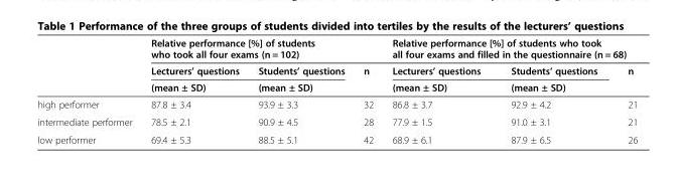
<table><thead><tr><td rowspan="3"></td><td colspan="3">Relative performance [%] of students who took all four exams (n = 102)</td><td colspan="3">Relative performance [%] of students who took all four exams and filled in the questionnaire (n = 68)</td></tr><tr><td rowspan="2">Lecturers’ questions (mean ± SD)</td><td rowspan="2">Students’ questions (mean ± SD)</td><td rowspan="2">n</td><td rowspan="2">Lecturers’ questions (mean ± SD)</td><td rowspan="2">Students’ questions (mean ± SD)</td><td rowspan="2">n</td></tr><tr></tr></thead><tbody><tr><td>high performer</td><td>87.8 ± 3.4</td><td>93.9 ± 3.3</td><td>32</td><td>86.8 ± 3.7</td><td>92.9 ± 4.2</td><td>21</td></tr><tr><td>intermediate performer</td><td>78.5 ± 2.1</td><td>90.9 ± 4.5</td><td>28</td><td>77.9 ± 1.5</td><td>91.0 ± 3.1</td><td>21</td></tr><tr><td>low performer</td><td>69.4 ± 5.3</td><td>88.5 ± 5.1</td><td>42</td><td>68.9 ± 6.1</td><td>87.9 ± 6.5</td><td>26</td></tr></tbody></table>